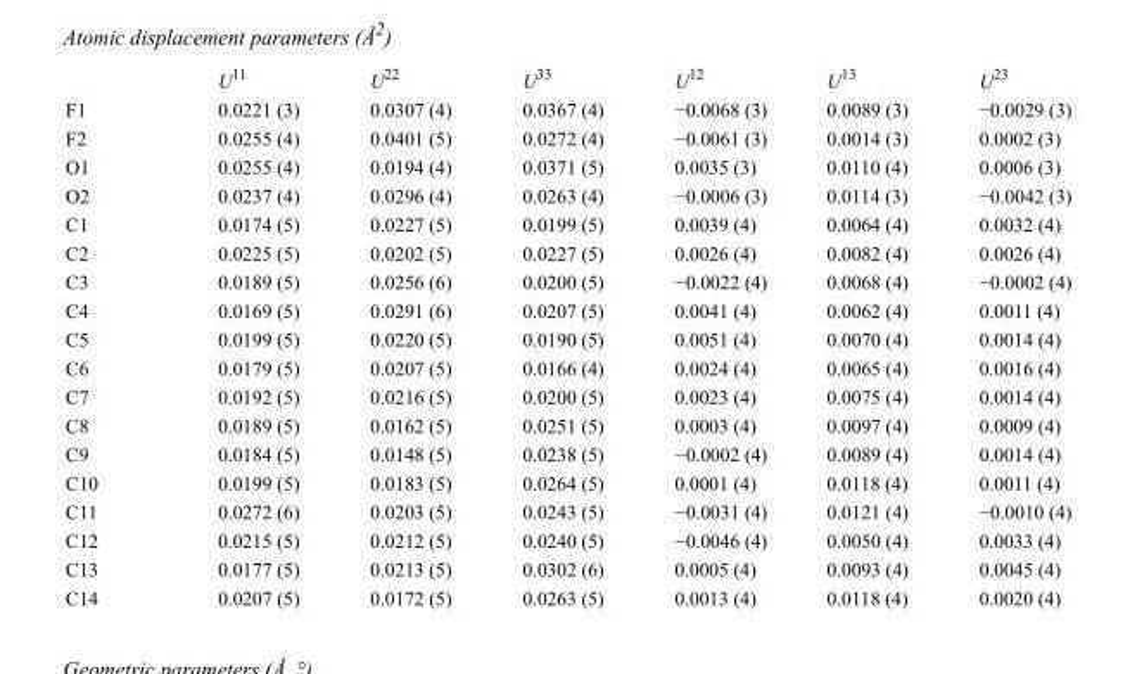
<table><thead><tr><td></td><td>U<sup>11</sup></td><td>U<sup>22</sup></td><td>U<sup>33</sup></td><td>U<sup>12</sup></td><td>U<sup>13</sup></td><td>U<sup>23</sup></td></tr></thead><tbody><tr><td>F1</td><td>0.0221 (3)</td><td>0.0307 (4)</td><td>0.0367 (4)</td><td>−0.0068 (3)</td><td>0.0089 (3)</td><td>−0.0029 (3)</td></tr><tr><td>F2</td><td>0.0255 (4)</td><td>0.0401 (5)</td><td>0.0272 (4)</td><td>−0.0061 (3)</td><td>0.0014 (3)</td><td>0.0002 (3)</td></tr><tr><td>O1</td><td>0.0255 (4)</td><td>0.0194 (4)</td><td>0.0371 (5)</td><td>0.0035 (3)</td><td>0.0110 (4)</td><td>0.0006 (3)</td></tr><tr><td>O2</td><td>0.0237 (4)</td><td>0.0296 (4)</td><td>0.0263 (4)</td><td>−0.0006 (3)</td><td>0.0114 (3)</td><td>−0.0042 (3)</td></tr><tr><td>C1</td><td>0.0174 (5)</td><td>0.0227 (5)</td><td>0.0199 (5)</td><td>0.0039 (4)</td><td>0.0064 (4)</td><td>0.0032 (4)</td></tr><tr><td>C2</td><td>0.0225 (5)</td><td>0.0202 (5)</td><td>0.0227 (5)</td><td>0.0026 (4)</td><td>0.0082 (4)</td><td>0.0026 (4)</td></tr><tr><td>C3</td><td>0.0189 (5)</td><td>0.0256 (6)</td><td>0.0200 (5)</td><td>−0.0022 (4)</td><td>0.0068 (4)</td><td>−0.0002 (4)</td></tr><tr><td>C4</td><td>0.0169 (5)</td><td>0.0291 (6)</td><td>0.0207 (5)</td><td>0.0041 (4)</td><td>0.0062 (4)</td><td>0.0011 (4)</td></tr><tr><td>C5</td><td>0.0199 (5)</td><td>0.0220 (5)</td><td>0.0190 (5)</td><td>0.0051 (4)</td><td>0.0070 (4)</td><td>0.0014 (4)</td></tr><tr><td>C6</td><td>0.0179 (5)</td><td>0.0207 (5)</td><td>0.0166 (4)</td><td>0.0024 (4)</td><td>0.0065 (4)</td><td>0.0016 (4)</td></tr><tr><td>C7</td><td>0.0192 (5)</td><td>0.0216 (5)</td><td>0.0200 (5)</td><td>0.0023 (4)</td><td>0.0075 (4)</td><td>0.0014 (4)</td></tr><tr><td>C8</td><td>0.0189 (5)</td><td>0.0162 (5)</td><td>0.0251 (5)</td><td>0.0003 (4)</td><td>0.0097 (4)</td><td>0.0009 (4)</td></tr><tr><td>C9</td><td>0.0184 (5)</td><td>0.0148 (5)</td><td>0.0238 (5)</td><td>−0.0002 (4)</td><td>0.0089 (4)</td><td>0.0014 (4)</td></tr><tr><td>C10</td><td>0.0199 (5)</td><td>0.0183 (5)</td><td>0.0264 (5)</td><td>0.0001 (4)</td><td>0.0118 (4)</td><td>0.0011 (4)</td></tr><tr><td>C11</td><td>0.0272 (6)</td><td>0.0203 (5)</td><td>0.0243 (5)</td><td>−0.0031 (4)</td><td>0.0121 (4)</td><td>−0.0010 (4)</td></tr><tr><td>C12</td><td>0.0215 (5)</td><td>0.0212 (5)</td><td>0.0240 (5)</td><td>−0.0046 (4)</td><td>0.0050 (4)</td><td>0.0033 (4)</td></tr><tr><td>C13</td><td>0.0177 (5)</td><td>0.0213 (5)</td><td>0.0302 (6)</td><td>0.0005 (4)</td><td>0.0093 (4)</td><td>0.0045 (4)</td></tr><tr><td>C14</td><td>0.0207 (5)</td><td>0.0172 (5)</td><td>0.0263 (5)</td><td>0.0013 (4)</td><td>0.0118 (4)</td><td>0.0020 (4)</td></tr></tbody></table>